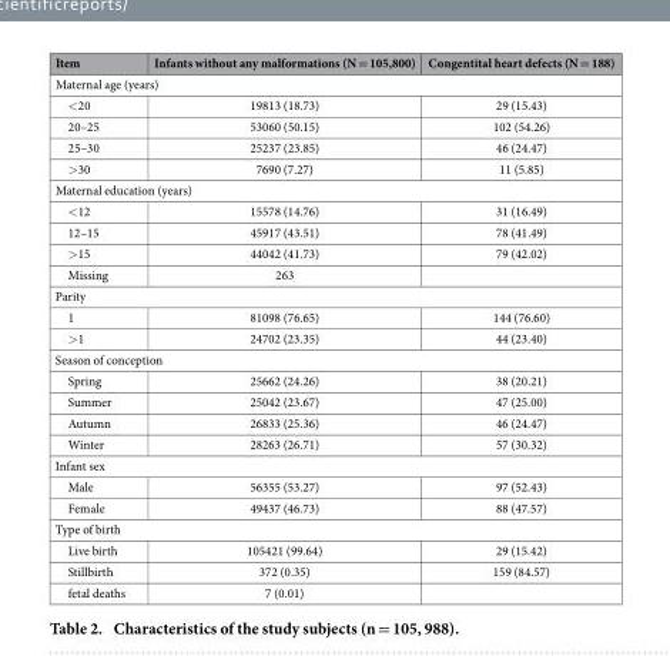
<table><thead><tr><td>Item</td><td>Infants without any malformations (N = 105,800)</td><td>Congentital heart defects (N = 188)</td></tr></thead><tbody><tr><td colspan="3">Maternal age (years)</td></tr><tr><td>&lt; 20</td><td>19813 (18.73)</td><td>29 (15.43)</td></tr><tr><td>20–25</td><td>53060 (50.15)</td><td>102 (54.26)</td></tr><tr><td>25–30</td><td>25237 (23.85)</td><td>46 (24.47)</td></tr><tr><td>&gt; 30</td><td>7690 (7.27)</td><td>11 (5.85)</td></tr><tr><td colspan="3">Maternal education (years)</td></tr><tr><td>&lt; 12</td><td>15578 (14.76)</td><td>31 (16.49)</td></tr><tr><td>12–15</td><td>45917 (43.51)</td><td>78 (41.49)</td></tr><tr><td>&gt; 15</td><td>44042 (41.73)</td><td>79 (42.02)</td></tr><tr><td>Missing</td><td>263</td><td></td></tr><tr><td colspan="3">Parity</td></tr><tr><td>1</td><td>81098 (76.65)</td><td>144 (76.60)</td></tr><tr><td>&gt; 1</td><td>24702 (23.35)</td><td>44 (23.40)</td></tr><tr><td colspan="3">Season of conception</td></tr><tr><td>Spring</td><td>25662 (24.26)</td><td>38 (20.21)</td></tr><tr><td>Summer</td><td>25042 (23.67)</td><td>47 (25.00)</td></tr><tr><td>Autumn</td><td>26833 (25.36)</td><td>46 (24.47)</td></tr><tr><td>Winter</td><td>28263 (26.71)</td><td>57 (30.32)</td></tr><tr><td colspan="3">Infant sex</td></tr><tr><td>Male</td><td>56355 (53.27)</td><td>97 (52.43)</td></tr><tr><td>Female</td><td>49437 (46.73)</td><td>88 (47.57)</td></tr><tr><td colspan="3">Type of birth</td></tr><tr><td>Live birth</td><td>105421 (99.64)</td><td>29 (15.42)</td></tr><tr><td>Stillbirth</td><td>372 (0.35)</td><td>159 (84.57)</td></tr><tr><td>fetal deaths</td><td>7 (0.01)</td><td></td></tr></tbody></table>